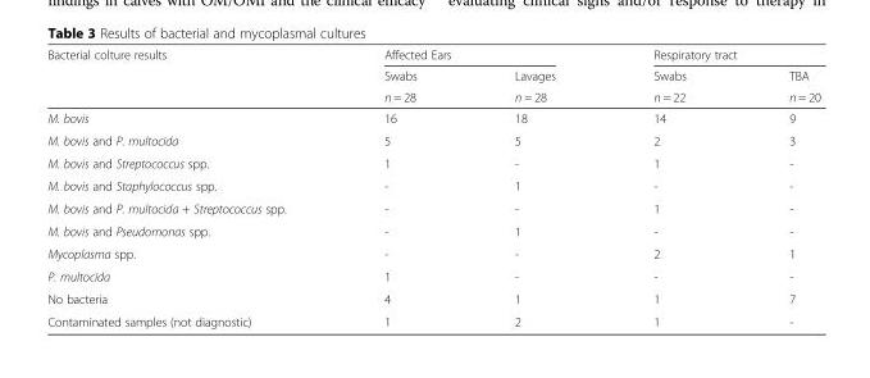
<table><thead><tr><td rowspan="3">Bacterial colture results</td><td colspan="2">Affected Ears</td><td colspan="2">Respiratory tract</td></tr><tr><td rowspan="2">Swabs n = 28</td><td rowspan="2">Lavages n = 28</td><td rowspan="2">Swabs n = 22</td><td rowspan="2">TBA n = 20</td></tr><tr></tr></thead><tbody><tr><td>M. bovis</td><td>16</td><td>18</td><td>14</td><td>9</td></tr><tr><td>M. bovis and P. multocida</td><td>5</td><td>5</td><td>2</td><td>3</td></tr><tr><td>M. bovis and Streptococcus spp.</td><td>1</td><td>-</td><td>1</td><td>-</td></tr><tr><td>M. bovis and Staphylococcus spp.</td><td>-</td><td>1</td><td>-</td><td>-</td></tr><tr><td>M. bovis and P. multocida + Streptococcus spp.</td><td>-</td><td>-</td><td>1</td><td>-</td></tr><tr><td>M. bovis and Pseudomonas spp.</td><td>-</td><td>1</td><td>-</td><td>-</td></tr><tr><td>Mycoplasma spp.</td><td>-</td><td>-</td><td>2</td><td>1</td></tr><tr><td>P. multocida</td><td>1</td><td>-</td><td>-</td><td>-</td></tr><tr><td>No bacteria</td><td>4</td><td>1</td><td>1</td><td>7</td></tr><tr><td>Contaminated samples (not diagnostic)</td><td>1</td><td>2</td><td>1</td><td>-</td></tr></tbody></table>